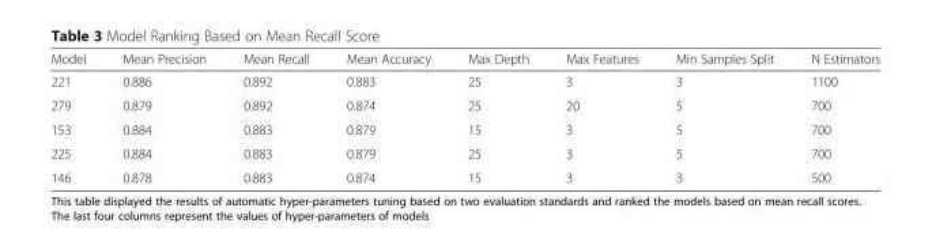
<table><thead><tr><td>Model</td><td>Mean Precision</td><td>Mean Recall</td><td>Mean Accuracy</td><td>Max Depth</td><td>Max Features</td><td>Min Samples Split</td><td>N Estimators</td></tr></thead><tbody><tr><td>221</td><td>0.886</td><td>0.892</td><td>0.883</td><td>25</td><td>3</td><td>3</td><td>1100</td></tr><tr><td>279</td><td>0.879</td><td>0.892</td><td>0.874</td><td>25</td><td>20</td><td>5</td><td>700</td></tr><tr><td>153</td><td>0.884</td><td>0.883</td><td>0.879</td><td>15</td><td>3</td><td>5</td><td>700</td></tr><tr><td>225</td><td>0.884</td><td>0.883</td><td>0.879</td><td>25</td><td>3</td><td>5</td><td>700</td></tr><tr><td>146</td><td>0.878</td><td>0.883</td><td>0.874</td><td>15</td><td>3</td><td>3</td><td>500</td></tr></tbody></table>